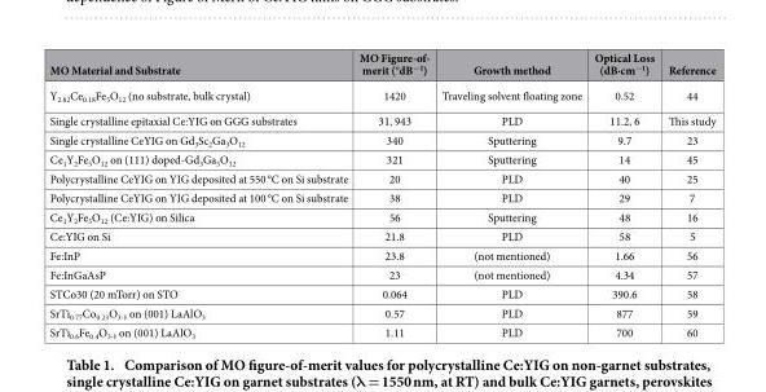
<table><thead><tr><td>MO Material and Substrate</td><td>MO Figure-of- merit (°dB<sup>−1</sup>)</td><td>Growth method</td><td>Optical Loss (dB·cm<sup>−1</sup>)</td><td>Reference</td></tr></thead><tbody><tr><td>Y<sub>2.82</sub>Ce<sub>0.18</sub>Fe<sub>5</sub>O<sub>12</sub> (no substrate, bulk crystal)</td><td>1420</td><td>Traveling solvent floating zone</td><td>0.52</td><td>44</td></tr><tr><td>Single crystalline epitaxial Ce:YIG on GGG substrates</td><td>31, 943</td><td>PLD</td><td>11.2, 6</td><td>This study</td></tr><tr><td>Single crystalline CeYIG on Gd<sub>3</sub>Sc<sub>2</sub>Ga<sub>3</sub>O<sub>12</sub></td><td>340</td><td>Sputtering</td><td>9.7</td><td>23</td></tr><tr><td>Ce<sub>1</sub>Y<sub>2</sub>Fe<sub>5</sub>O<sub>12</sub> on (111) doped-Gd<sub>3</sub>Ga<sub>5</sub>O<sub>12</sub></td><td>321</td><td>Sputtering</td><td>14</td><td>45</td></tr><tr><td>Polycrystalline CeYIG on YIG deposited at 550 °C on Si substrate</td><td>20</td><td>PLD</td><td>40</td><td>25</td></tr><tr><td>Polycrystalline CeYIG on YIG deposited at 100 °C on Si substrate</td><td>38</td><td>PLD</td><td>29</td><td>7</td></tr><tr><td>Ce<sub>1</sub>Y<sub>2</sub>Fe<sub>5</sub>O<sub>12</sub> (Ce:YIG) on Silica</td><td>56</td><td>Sputtering</td><td>48</td><td>16</td></tr><tr><td>Ce:YIG on Si</td><td>21.8</td><td>PLD</td><td>58</td><td>5</td></tr><tr><td>Fe:InP</td><td>23.8</td><td>(not mentioned)</td><td>1.66</td><td>56</td></tr><tr><td>Fe:InGaAsP</td><td>23</td><td>(not mentioned)</td><td>4.34</td><td>57</td></tr><tr><td>STCo30 (20 mTorr) on STO</td><td>0.064</td><td>PLD</td><td>390.6</td><td>58</td></tr><tr><td>SrTi<sub>0.77</sub>Co<sub>0.23</sub>O<sub>3-δ</sub> on (001) LaAlO<sub>3</sub></td><td>0.57</td><td>PLD</td><td>877</td><td>59</td></tr><tr><td>SrTi<sub>0.6</sub>Fe<sub>0.4</sub>O<sub>3-δ</sub> on (001) LaAlO<sub>3</sub></td><td>1.11</td><td>PLD</td><td>700</td><td>60</td></tr></tbody></table>